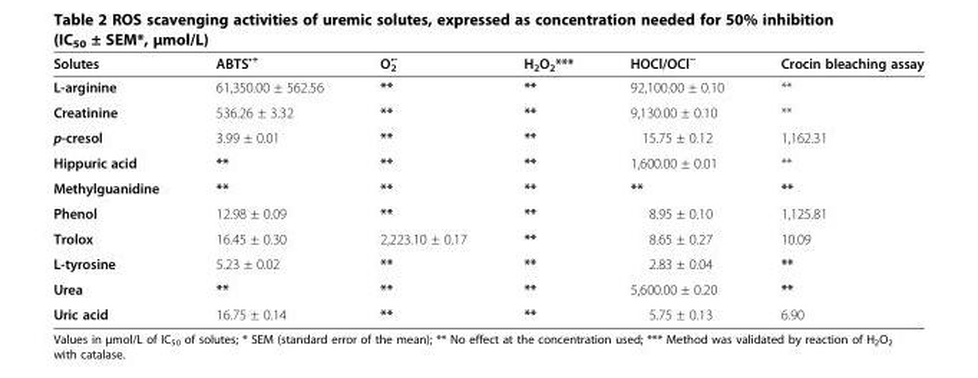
<table><thead><tr><td>Solutes</td><td>ABTS<sup>•+</sup></td><td>O<sub>2</sub> <sup>•-</sup></td><td>H<sub>2</sub>O<sub>2</sub>***</td><td>HOCl/OCl<sup>−</sup></td><td>Crocin bleaching assay</td></tr></thead><tbody><tr><td>L-arginine</td><td>61,350.00 ± 562.56</td><td>**</td><td>**</td><td>92,100.00 ± 0.10</td><td>**</td></tr><tr><td>Creatinine</td><td>536.26 ± 3.32</td><td>**</td><td>**</td><td>9,130.00 ± 0.10</td><td>**</td></tr><tr><td>p-cresol</td><td>3.99 ± 0.01</td><td>**</td><td>**</td><td>15.75 ± 0.12</td><td>1,162.31</td></tr><tr><td>Hippuric acid</td><td>**</td><td>**</td><td>**</td><td>1,600.00 ± 0.01</td><td>**</td></tr><tr><td>Methylguanidine</td><td>**</td><td>**</td><td>**</td><td>**</td><td>**</td></tr><tr><td>Phenol</td><td>12.98 ± 0.09</td><td>**</td><td>**</td><td>8.95 ± 0.10</td><td>1,125.81</td></tr><tr><td>Trolox</td><td>16.45 ± 0.30</td><td>2,223.10 ± 0.17</td><td>**</td><td>8.65 ± 0.27</td><td>10.09</td></tr><tr><td>L-tyrosine</td><td>5.23 ± 0.02</td><td>**</td><td>**</td><td>2.83 ± 0.04</td><td>**</td></tr><tr><td>Urea</td><td>**</td><td>**</td><td>**</td><td>5,600.00 ± 0.20</td><td>**</td></tr><tr><td>Uric acid</td><td>16.75 ± 0.14</td><td>**</td><td>**</td><td>5.75 ± 0.13</td><td>6.90</td></tr></tbody></table>